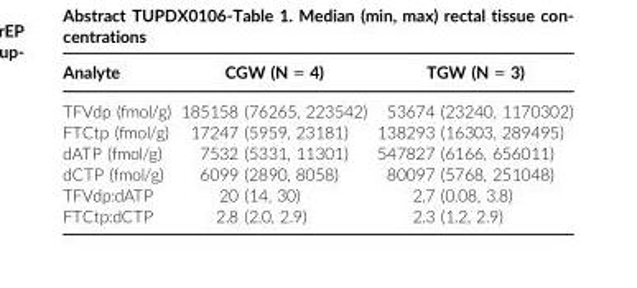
<table><thead><tr><td>Analyte</td><td>CGW (N = 4)</td><td>TGW (N = 3)</td></tr></thead><tbody><tr><td>TFVdp (fmol/g)</td><td>185158 (76265, 223542)</td><td>53674 (23240, 1170302)</td></tr><tr><td>FTCtp (fmol/g)</td><td>17247 (5959, 23181)</td><td>138293 (16303, 289495)</td></tr><tr><td>dATP (fmol/g)</td><td>7532 (5331, 11301)</td><td>547827 (6166, 656011)</td></tr><tr><td>dCTP (fmol/g)</td><td>6099 (2890, 8058)</td><td>80097 (5768, 251048)</td></tr><tr><td>TFVdp:dATP</td><td>20 (14, 30)</td><td>2.7 (0.08, 3.8)</td></tr><tr><td>FTCtp:dCTP</td><td>2.8 (2.0, 2.9)</td><td>2.3 (1.2, 2.9)</td></tr></tbody></table>